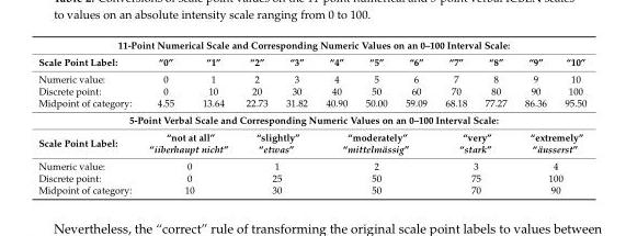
<table><tbody><tr><td colspan="12">11-Point Numerical Scale and Corresponding Numeric Values on an 0–100 Interval Scale:</td></tr><tr><td>Scale Point Label:</td><td>“0”</td><td>“1”</td><td>“2”</td><td>“3”</td><td>“4”</td><td>“5”</td><td>“6”</td><td>“7”</td><td>“8”</td><td>“9”</td><td>“10”</td></tr><tr><td>Numeric value:</td><td>0</td><td>1</td><td>2</td><td>3</td><td>4</td><td>5</td><td>6</td><td>7</td><td>8</td><td>9</td><td>10</td></tr><tr><td>Discrete point:</td><td>0</td><td>10</td><td>20</td><td>30</td><td>40</td><td>50</td><td>60</td><td>70</td><td>80</td><td>90</td><td>100</td></tr><tr><td>Midpoint of category:</td><td>4.55</td><td>13.64</td><td>22.73</td><td>31.82</td><td>40.90</td><td>50.00</td><td>59.09</td><td>68.18</td><td>77.27</td><td>86.36</td><td>95.50</td></tr><tr><td colspan="12">5-Point Verbal Scale and Corresponding Numeric Values on an 0–100 Interval Scale:</td></tr><tr><td>Scale Point Label:</td><td colspan="2">“not at all” “iiberhaupt nicht”</td><td colspan="2">“slightly” “etwas”</td><td colspan="3">“moderately” “mittelmässig”</td><td colspan="2">“very” “stark”</td><td colspan="2">“extremely” “äusserst”</td></tr><tr><td>Numeric value:</td><td colspan="2">0</td><td colspan="2">1</td><td colspan="3">2</td><td colspan="2">3</td><td colspan="2">4</td></tr><tr><td>Discrete point:</td><td colspan="2">0</td><td colspan="2">25</td><td colspan="3">50</td><td colspan="2">75</td><td colspan="2">100</td></tr><tr><td>Midpoint of category:</td><td colspan="2">10</td><td colspan="2">30</td><td colspan="3">50</td><td colspan="2">70</td><td colspan="2">90</td></tr></tbody></table>